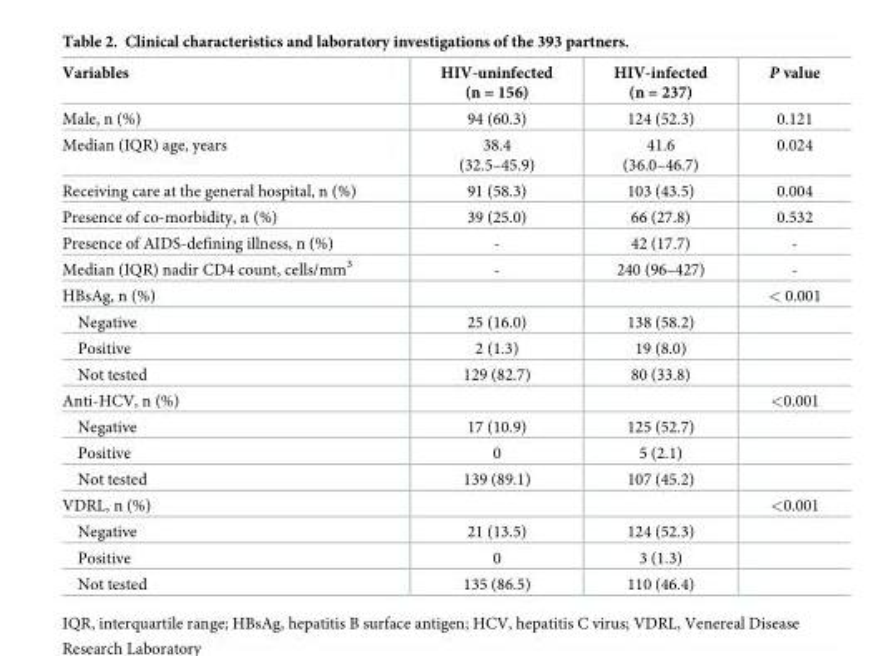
<table><thead><tr><td>Variables</td><td>HIV-uninfected (n = 156)</td><td>HIV-infected (n = 237)</td><td>P value</td></tr></thead><tbody><tr><td>Male, n (%)</td><td>94 (60.3)</td><td>124 (52.3)</td><td>0.121</td></tr><tr><td>Median (IQR) age, years</td><td>38.4 (32.5–45.9)</td><td>41.6 (36.0–46.7)</td><td>0.024</td></tr><tr><td>Receiving care at the general hospital, n (%)</td><td>91 (58.3)</td><td>103 (43.5)</td><td>0.004</td></tr><tr><td>Presence of co-morbidity, n (%)</td><td>39 (25.0)</td><td>66 (27.8)</td><td>0.532</td></tr><tr><td>Presence of AIDS-defining illness, n (%)</td><td>-</td><td>42 (17.7)</td><td>-</td></tr><tr><td>Median (IQR) nadir CD4 count, cells/mm<sup>3</sup></td><td>-</td><td>240 (96–427)</td><td>-</td></tr><tr><td>HBsAg, n (%)</td><td></td><td></td><td>&lt; 0.001</td></tr><tr><td>Negative</td><td>25 (16.0)</td><td>138 (58.2)</td><td></td></tr><tr><td>Positive</td><td>2 (1.3)</td><td>19 (8.0)</td><td></td></tr><tr><td>Not tested</td><td>129 (82.7)</td><td>80 (33.8)</td><td></td></tr><tr><td>Anti-HCV, n (%)</td><td></td><td></td><td>&lt;0.001</td></tr><tr><td>Negative</td><td>17 (10.9)</td><td>125 (52.7)</td><td></td></tr><tr><td>Positive</td><td>0</td><td>5 (2.1)</td><td></td></tr><tr><td>Not tested</td><td>139 (89.1)</td><td>107 (45.2)</td><td></td></tr><tr><td>VDRL, n (%)</td><td></td><td></td><td>&lt;0.001</td></tr><tr><td>Negative</td><td>21 (13.5)</td><td>124 (52.3)</td><td></td></tr><tr><td>Positive</td><td>0</td><td>3 (1.3)</td><td></td></tr><tr><td>Not tested</td><td>135 (86.5)</td><td>110 (46.4)</td><td></td></tr></tbody></table>